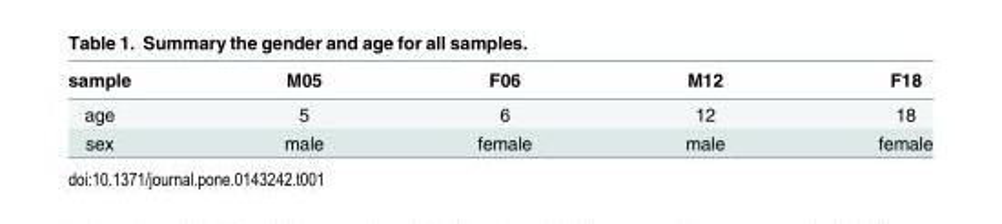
<table><thead><tr><td>sample</td><td>M05</td><td>F06</td><td>M12</td><td>F18</td></tr></thead><tbody><tr><td>age</td><td>5</td><td>6</td><td>12</td><td>18</td></tr><tr><td>sex</td><td>male</td><td>female</td><td>male</td><td>female</td></tr></tbody></table>